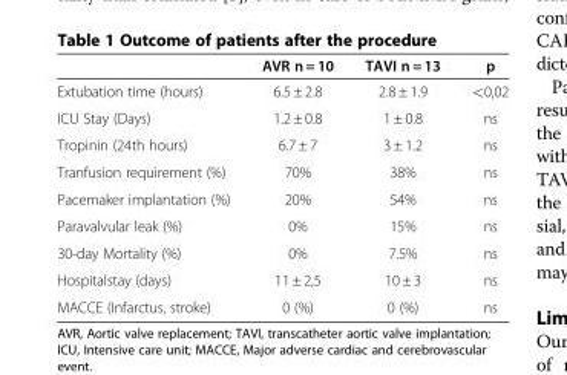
<table><thead><tr><td></td><td>AVR n = 10</td><td>TAVI n = 13</td><td>p</td></tr></thead><tbody><tr><td>Extubation time (hours)</td><td>6.5 ± 2.8</td><td>2.8 ± 1.9</td><td>&lt;0,02</td></tr><tr><td>ICU Stay (Days)</td><td>1.2 ± 0.8</td><td>1 ± 0.8</td><td>ns</td></tr><tr><td>Tropinin (24th hours)</td><td>6.7 ± 7</td><td>3 ± 1.2</td><td>ns</td></tr><tr><td>Tranfusion requirement (%)</td><td>70%</td><td>38%</td><td>ns</td></tr><tr><td>Pacemaker implantation (%)</td><td>20%</td><td>54%</td><td>ns</td></tr><tr><td>Paravalvular leak (%)</td><td>0%</td><td>15%</td><td>ns</td></tr><tr><td>30-day Mortality (%)</td><td>0%</td><td>7.5%</td><td>ns</td></tr><tr><td>Hospitalstay (days)</td><td>11 ± 2,5</td><td>10 ± 3</td><td>ns</td></tr><tr><td>MACCE (Infarctus, stroke)</td><td>0 (%)</td><td>0 (%)</td><td>ns</td></tr></tbody></table>